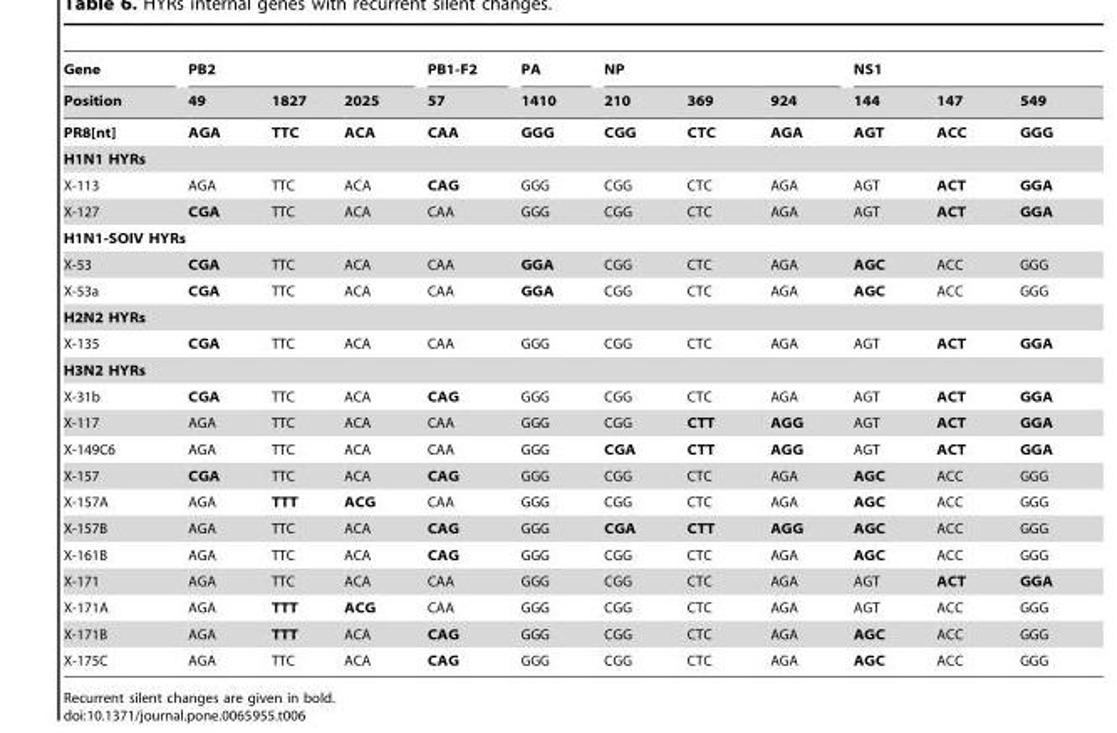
<table><thead><tr><td rowspan="2">Gene Position</td><td colspan="3">PB2</td><td rowspan="2">PB1-F2 57</td><td rowspan="2">PA 1410</td><td colspan="3">NP</td><td colspan="3">NS1</td></tr><tr><td>49</td><td>1827</td><td>2025</td><td>210</td><td>369</td><td>924</td><td>144</td><td>147</td><td>549</td></tr></thead><tbody><tr><td>PR8[nt]</td><td>AGA</td><td>TTC</td><td>ACA</td><td>CAA</td><td>GGG</td><td>CGG</td><td>CTC</td><td>AGA</td><td>AGT</td><td>ACC</td><td>GGG</td></tr><tr><td colspan="12">H1N1 HYRs</td></tr><tr><td>X-113</td><td>AGA</td><td>TTC</td><td>ACA</td><td>CAG</td><td>GGG</td><td>CGG</td><td>CTC</td><td>AGA</td><td>AGT</td><td>ACT</td><td>GGA</td></tr><tr><td>X-127</td><td>CGA</td><td>TTC</td><td>ACA</td><td>CAA</td><td>GGG</td><td>CGG</td><td>CTC</td><td>AGA</td><td>AGT</td><td>ACT</td><td>GGA</td></tr><tr><td colspan="12">H1N1-SOIV HYRs</td></tr><tr><td>X-53</td><td>CGA</td><td>TTC</td><td>ACA</td><td>CAA</td><td>GGA</td><td>CGG</td><td>CTC</td><td>AGA</td><td>AGC</td><td>ACC</td><td>GGG</td></tr><tr><td>X-53a</td><td>CGA</td><td>TTC</td><td>ACA</td><td>CAA</td><td>GGA</td><td>CGG</td><td>CTC</td><td>AGA</td><td>AGC</td><td>ACC</td><td>GGG</td></tr><tr><td colspan="12">H2N2 HYRs</td></tr><tr><td>X-135</td><td>CGA</td><td>TTC</td><td>ACA</td><td>CAA</td><td>GGG</td><td>CGG</td><td>CTC</td><td>AGA</td><td>AGT</td><td>ACT</td><td>GGA</td></tr><tr><td colspan="12">H3N2 HYRs</td></tr><tr><td>X-31b</td><td>CGA</td><td>TTC</td><td>ACA</td><td>CAG</td><td>GGG</td><td>CGG</td><td>CTC</td><td>AGA</td><td>AGT</td><td>ACT</td><td>GGA</td></tr><tr><td>X-117</td><td>AGA</td><td>TTC</td><td>ACA</td><td>CAA</td><td>GGG</td><td>CGG</td><td>CTT</td><td>AGG</td><td>AGT</td><td>ACT</td><td>GGA</td></tr><tr><td>X-149C6</td><td>AGA</td><td>TTC</td><td>ACA</td><td>CAA</td><td>GGG</td><td>CGA</td><td>CTT</td><td>AGG</td><td>AGT</td><td>ACT</td><td>GGA</td></tr><tr><td>X-157</td><td>CGA</td><td>TTC</td><td>ACA</td><td>CAG</td><td>GGG</td><td>CGG</td><td>CTC</td><td>AGA</td><td>AGC</td><td>ACC</td><td>GGG</td></tr><tr><td>X-157A</td><td>AGA</td><td>TTT</td><td>ACG</td><td>CAA</td><td>GGG</td><td>CGG</td><td>CTC</td><td>AGA</td><td>AGC</td><td>ACC</td><td>GGG</td></tr><tr><td>X-157B</td><td>AGA</td><td>TTC</td><td>ACA</td><td>CAG</td><td>GGG</td><td>CGA</td><td>CTT</td><td>AGG</td><td>AGC</td><td>ACC</td><td>GGG</td></tr><tr><td>X-161B</td><td>AGA</td><td>TTC</td><td>ACA</td><td>CAG</td><td>GGG</td><td>CGG</td><td>CTC</td><td>AGA</td><td>AGC</td><td>ACC</td><td>GGG</td></tr><tr><td>X-171</td><td>AGA</td><td>TTC</td><td>ACA</td><td>CAA</td><td>GGG</td><td>CGG</td><td>CTC</td><td>AGA</td><td>AGT</td><td>ACT</td><td>GGA</td></tr><tr><td>X-171A</td><td>AGA</td><td>TTT</td><td>ACG</td><td>CAA</td><td>GGG</td><td>CGG</td><td>CTC</td><td>AGA</td><td>AGT</td><td>ACC</td><td>GGG</td></tr><tr><td>X-171B</td><td>AGA</td><td>TTT</td><td>ACA</td><td>CAG</td><td>GGG</td><td>CGG</td><td>CTC</td><td>AGA</td><td>AGC</td><td>ACC</td><td>GGG</td></tr><tr><td>X-175C</td><td>AGA</td><td>TTC</td><td>ACA</td><td>CAG</td><td>GGG</td><td>CGG</td><td>CTC</td><td>AGA</td><td>AGC</td><td>ACC</td><td>GGG</td></tr></tbody></table>